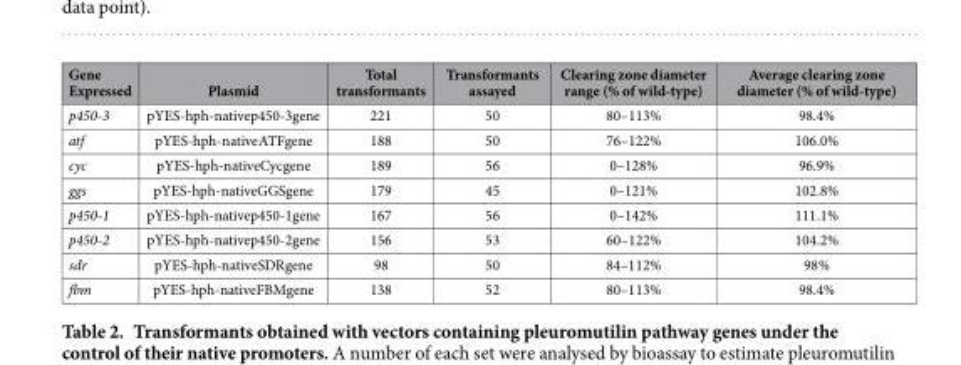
<table><thead><tr><td>Gene Expressed</td><td>Plasmid</td><td>Total transformants</td><td>Transformants assayed</td><td>Clearing zone diameter range (% of wild-type)</td><td>Average clearing zone diameter (% of wild-type)</td></tr></thead><tbody><tr><td>p450-3</td><td>pYES-hph-nativep450-3gene</td><td>221</td><td>50</td><td>80–113%</td><td>98.4%</td></tr><tr><td>atf</td><td>pYES-hph-nativeATFgene</td><td>188</td><td>50</td><td>76–122%</td><td>106.0%</td></tr><tr><td>cyc</td><td>pYES-hph-nativeCycgene</td><td>189</td><td>56</td><td>0–128%</td><td>96.9%</td></tr><tr><td>ggs</td><td>pYES-hph-nativeGGSgene</td><td>179</td><td>45</td><td>0–121%</td><td>102.8%</td></tr><tr><td>p450-1</td><td>pYES-hph-nativep450-1gene</td><td>167</td><td>56</td><td>0–142%</td><td>111.1%</td></tr><tr><td>p450-2</td><td>pYES-hph-nativep450-2gene</td><td>156</td><td>53</td><td>60–122%</td><td>104.2%</td></tr><tr><td>sdr</td><td>pYES-hph-nativeSDRgene</td><td>98</td><td>50</td><td>84–112%</td><td>98%</td></tr><tr><td>fbm</td><td>pYES-hph-nativeFBMgene</td><td>138</td><td>52</td><td>80–113%</td><td>98.4%</td></tr></tbody></table>